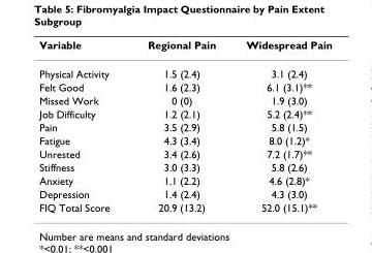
<table><thead><tr><td>Variable</td><td>Regional Pain</td><td>Widespread Pain</td></tr></thead><tbody><tr><td>Physical Activity</td><td>1.5 (2.4)</td><td>3.1 (2.4)</td></tr><tr><td>Felt Good</td><td>1.6 (2.3)</td><td>6.1 (3.1)**</td></tr><tr><td>Missed Work</td><td>0 (0)</td><td>1.9 (3.0)</td></tr><tr><td>Job Difficulty</td><td>1.2 (2.1)</td><td>5.2 (2.4)**</td></tr><tr><td>Pain</td><td>3.5 (2.9)</td><td>5.8 (1.5)</td></tr><tr><td>Fatigue</td><td>4.3 (3.4)</td><td>8.0 (1.2)*</td></tr><tr><td>Unrested</td><td>3.4 (2.6)</td><td>7.2 (1.7)**</td></tr><tr><td>Stiffness</td><td>3.0 (3.3)</td><td>5.8 (2.6)</td></tr><tr><td>Anxiety</td><td>1.1 (2.2)</td><td>4.6 (2.8)*</td></tr><tr><td>Depression</td><td>1.4 (2.4)</td><td>4.3 (3.0)</td></tr><tr><td>FIQ Total Score</td><td>20.9 (13.2)</td><td>52.0 (15.1)**</td></tr></tbody></table>